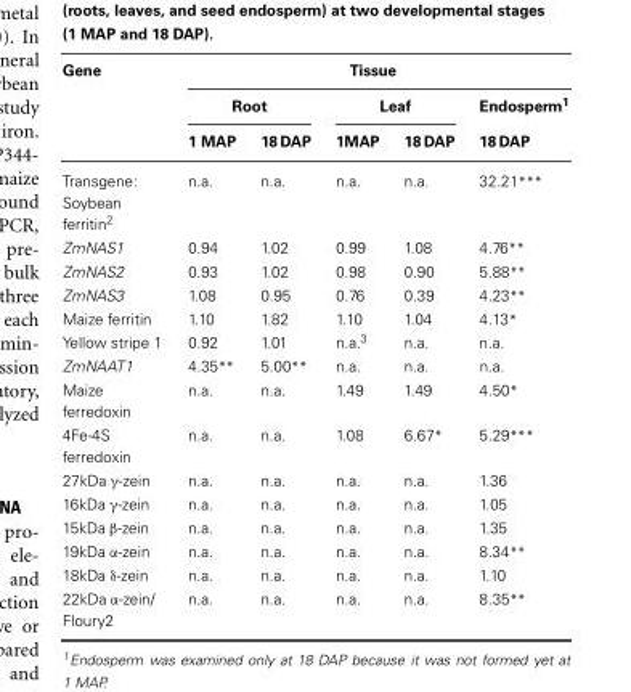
<table><thead><tr><td rowspan="3">Gene</td><td colspan="5">Tissue</td></tr><tr><td colspan="2">Root</td><td colspan="2">Leaf</td><td rowspan="2">Endosperm<sup>1</sup> 18 DAP</td></tr><tr><td>1 MAP</td><td>18 DAP</td><td>1MAP</td><td>18 DAP</td></tr></thead><tbody><tr><td>Transgene: Soybean ferritin<sup>2</sup></td><td>n.a.</td><td>n.a.</td><td>n.a.</td><td>n.a.</td><td>32.21***</td></tr><tr><td>ZmNAS1</td><td>0.94</td><td>1.02</td><td>0.99</td><td>1.08</td><td>4.76**</td></tr><tr><td>ZmNAS2</td><td>0.93</td><td>1.02</td><td>0.98</td><td>0.90</td><td>5.88**</td></tr><tr><td>ZmNAS3</td><td>1.08</td><td>0.95</td><td>0.76</td><td>0.39</td><td>4.23**</td></tr><tr><td>Maize ferritin</td><td>1.10</td><td>1.82</td><td>1.10</td><td>1.04</td><td>4.13*</td></tr><tr><td>Yellow stripe 1</td><td>0.92</td><td>1.01</td><td>n.a.<sup>3</sup></td><td>n.a.</td><td>n.a.</td></tr><tr><td>ZmNAAT1</td><td>4.35**</td><td>5.00**</td><td>n.a.</td><td>n.a.</td><td>n.a.</td></tr><tr><td>Maize ferredoxin</td><td>n.a.</td><td>n.a.</td><td>1.49</td><td>1.49</td><td>4.50*</td></tr><tr><td>4Fe-4S ferredoxin</td><td>n.a.</td><td>n.a.</td><td>1.08</td><td>6.67*</td><td>5.29***</td></tr><tr><td>27kDa γ-zein</td><td>n.a.</td><td>n.a.</td><td>n.a.</td><td>n.a.</td><td>1.36</td></tr><tr><td>16kDa γ-zein</td><td>n.a.</td><td>n.a.</td><td>n.a.</td><td>n.a.</td><td>1.05</td></tr><tr><td>15kDa β-zein</td><td>n.a.</td><td>n.a.</td><td>n.a.</td><td>n.a.</td><td>1.35</td></tr><tr><td>19kDa α-zein</td><td>n.a.</td><td>n.a.</td><td>n.a.</td><td>n.a.</td><td>8.34**</td></tr><tr><td>18kDa δ-zein</td><td>n.a.</td><td>n.a.</td><td>n.a.</td><td>n.a.</td><td>1.10</td></tr><tr><td>22kDa α-zein/ Floury2</td><td>n.a.</td><td>n.a.</td><td>n.a.</td><td>n.a.</td><td>8.35**</td></tr></tbody></table>